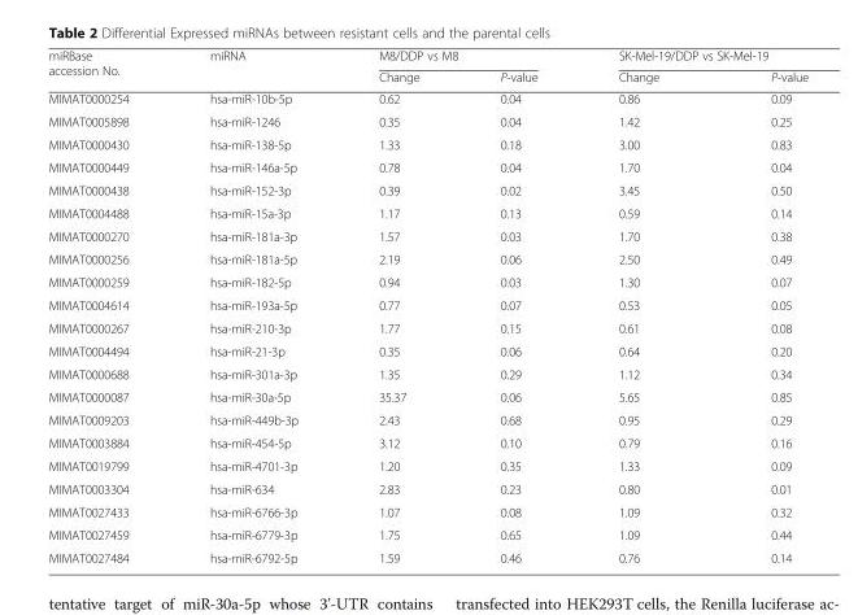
<table><thead><tr><td rowspan="2">miRBase accession No.</td><td rowspan="2">miRNA</td><td colspan="2">M8/DDP vs M8</td><td colspan="2">SK-Mel-19/DDP vs SK-Mel-19</td></tr><tr><td>Change</td><td>P-value</td><td>Change</td><td>P-value</td></tr></thead><tbody><tr><td>MIMAT0000254</td><td>hsa-miR-10b-5p</td><td>0.62</td><td>0.04</td><td>0.86</td><td>0.09</td></tr><tr><td>MIMAT0005898</td><td>hsa-miR-1246</td><td>0.35</td><td>0.04</td><td>1.42</td><td>0.25</td></tr><tr><td>MIMAT0000430</td><td>hsa-miR-138-5p</td><td>1.33</td><td>0.18</td><td>3.00</td><td>0.83</td></tr><tr><td>MIMAT0000449</td><td>hsa-miR-146a-5p</td><td>0.78</td><td>0.04</td><td>1.70</td><td>0.04</td></tr><tr><td>MIMAT0000438</td><td>hsa-miR-152-3p</td><td>0.39</td><td>0.02</td><td>3.45</td><td>0.50</td></tr><tr><td>MIMAT0004488</td><td>hsa-miR-15a-3p</td><td>1.17</td><td>0.13</td><td>0.59</td><td>0.14</td></tr><tr><td>MIMAT0000270</td><td>hsa-miR-181a-3p</td><td>1.57</td><td>0.03</td><td>1.70</td><td>0.38</td></tr><tr><td>MIMAT0000256</td><td>hsa-miR-181a-5p</td><td>2.19</td><td>0.06</td><td>2.50</td><td>0.49</td></tr><tr><td>MIMAT0000259</td><td>hsa-miR-182-5p</td><td>0.94</td><td>0.03</td><td>1.30</td><td>0.07</td></tr><tr><td>MIMAT0004614</td><td>hsa-miR-193a-5p</td><td>0.77</td><td>0.07</td><td>0.53</td><td>0.05</td></tr><tr><td>MIMAT0000267</td><td>hsa-miR-210-3p</td><td>1.77</td><td>0.15</td><td>0.61</td><td>0.08</td></tr><tr><td>MIMAT0004494</td><td>hsa-miR-21-3p</td><td>0.35</td><td>0.06</td><td>0.64</td><td>0.20</td></tr><tr><td>MIMAT0000688</td><td>hsa-miR-301a-3p</td><td>1.35</td><td>0.29</td><td>1.12</td><td>0.34</td></tr><tr><td>MIMAT0000087</td><td>hsa-miR-30a-5p</td><td>35.37</td><td>0.06</td><td>5.65</td><td>0.85</td></tr><tr><td>MIMAT0009203</td><td>hsa-miR-449b-3p</td><td>2.43</td><td>0.68</td><td>0.95</td><td>0.29</td></tr><tr><td>MIMAT0003884</td><td>hsa-miR-454-5p</td><td>3.12</td><td>0.10</td><td>0.79</td><td>0.16</td></tr><tr><td>MIMAT0019799</td><td>hsa-miR-4701-3p</td><td>1.20</td><td>0.35</td><td>1.33</td><td>0.09</td></tr><tr><td>MIMAT0003304</td><td>hsa-miR-634</td><td>2.83</td><td>0.23</td><td>0.80</td><td>0.01</td></tr><tr><td>MIMAT0027433</td><td>hsa-miR-6766-3p</td><td>1.07</td><td>0.08</td><td>1.09</td><td>0.32</td></tr><tr><td>MIMAT0027459</td><td>hsa-miR-6779-3p</td><td>1.75</td><td>0.65</td><td>1.09</td><td>0.44</td></tr><tr><td>MIMAT0027484</td><td>hsa-miR-6792-5p</td><td>1.59</td><td>0.46</td><td>0.76</td><td>0.14</td></tr></tbody></table>